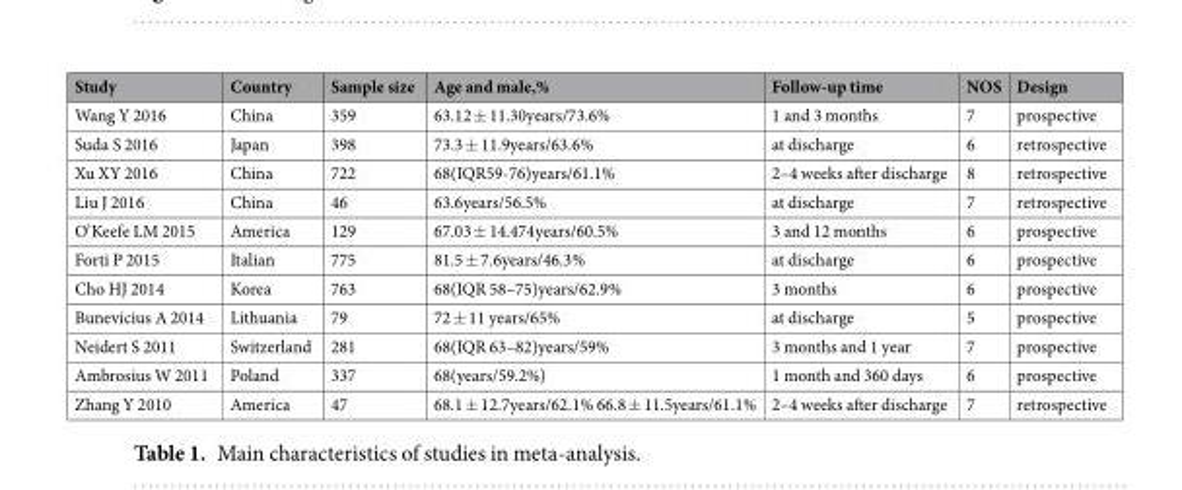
<table><thead><tr><td>Study</td><td>Country</td><td>Sample size</td><td>Age and male,%</td><td>Follow-up time</td><td>NOS</td><td>Design</td></tr></thead><tbody><tr><td>Wang Y 2016</td><td>China</td><td>359</td><td>63.12 ± 11.30years/73.6%</td><td>1 and 3 months</td><td>7</td><td>prospective</td></tr><tr><td>Suda S 2016</td><td>Japan</td><td>398</td><td>73.3 ± 11.9years/63.6%</td><td>at discharge</td><td>6</td><td>retrospective</td></tr><tr><td>Xu XY 2016</td><td>China</td><td>722</td><td>68(IQR59-76)years/61.1%</td><td>2–4 weeks after discharge</td><td>8</td><td>retrospective</td></tr><tr><td>Liu J 2016</td><td>China</td><td>46</td><td>63.6years/56.5%</td><td>at discharge</td><td>7</td><td>retrospective</td></tr><tr><td>O’Keefe LM 2015</td><td>America</td><td>129</td><td>67.03 ± 14.474years/60.5%</td><td>3 and 12 months</td><td>6</td><td>prospective</td></tr><tr><td>Forti P 2015</td><td>Italian</td><td>775</td><td>81.5 ± 7.6years/46.3%</td><td>at discharge</td><td>6</td><td>prospective</td></tr><tr><td>Cho HJ 2014</td><td>Korea</td><td>763</td><td>68(IQR 58–75)years/62.9%</td><td>3 months</td><td>6</td><td>prospective</td></tr><tr><td>Bunevicius A 2014</td><td>Lithuania</td><td>79</td><td>72 ± 11 years/65%</td><td>at discharge</td><td>5</td><td>prospective</td></tr><tr><td>Neidert S 2011</td><td>Switzerland</td><td>281</td><td>68(IQR 63–82)years/59%</td><td>3 months and 1 year</td><td>7</td><td>prospective</td></tr><tr><td>Ambrosius W 2011</td><td>Poland</td><td>337</td><td>68(years/59.2%)</td><td>1 month and 360 days</td><td>6</td><td>prospective</td></tr><tr><td>Zhang Y 2010</td><td>America</td><td>47</td><td>68.1 ± 12.7years/62.1% 66.8 ± 11.5years/61.1%</td><td>2–4 weeks after discharge</td><td>7</td><td>retrospective</td></tr></tbody></table>